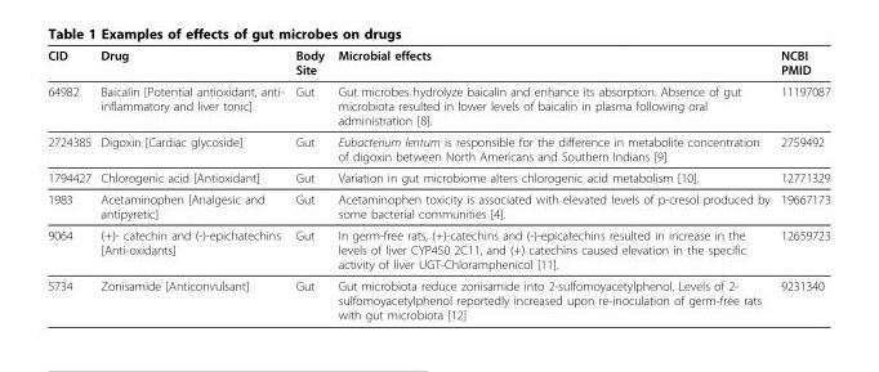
<table><thead><tr><td>CID</td><td>Drug</td><td>Body Site</td><td>Microbial effects</td><td>NCBI PMID</td></tr></thead><tbody><tr><td>64982</td><td>Baicalin [Potential antioxidant, anti- inflammatory and liver tonic]</td><td>Gut</td><td>Gut microbes hydrolyze baicalin and enhance its absorption. Absence of gut microbiota resulted in lower levels of baicalin in plasma following oral administration [8].</td><td>11197087</td></tr><tr><td>2724385</td><td>Digoxin [Cardiac glycoside]</td><td>Gut</td><td>Eubacterium lentum is responsible for the difference in metabolite concentration of digoxin between North Americans and Southern Indians [9]</td><td>2759492</td></tr><tr><td>1794427</td><td>Chlorogenic acid [Antioxidant]</td><td>Gut</td><td>Variation in gut microbiome alters chlorogenic acid metabolism [10].</td><td>12771329</td></tr><tr><td>1983</td><td>Acetaminophen [Analgesic and antipyretic]</td><td>Gut</td><td>Acetaminophen toxicity is associated with elevated levels of p-cresol produced by some bacterial communities [4].</td><td>19667173</td></tr><tr><td>9064</td><td>(+)- catechin and (-)-epichatechins [Anti-oxidants]</td><td>Gut</td><td>In germ-free rats, (+)-catechins and (-)-epicatechins resulted in increase in the levels of liver CYP450 2C11, and (+) catechins caused elevation in the specific activity of liver UGT-Chloramphenicol [11].</td><td>12659723</td></tr><tr><td>5734</td><td>Zonisamide [Anticonvulsant]</td><td>Gut</td><td>Gut microbiota reduce zonisamide into 2-sulfomoyacetylphenol. Levels of 2- sulfomoyacetylphenol reportedly increased upon re-inoculation of germ-free rats with gut microbiota [12]</td><td>9231340</td></tr></tbody></table>